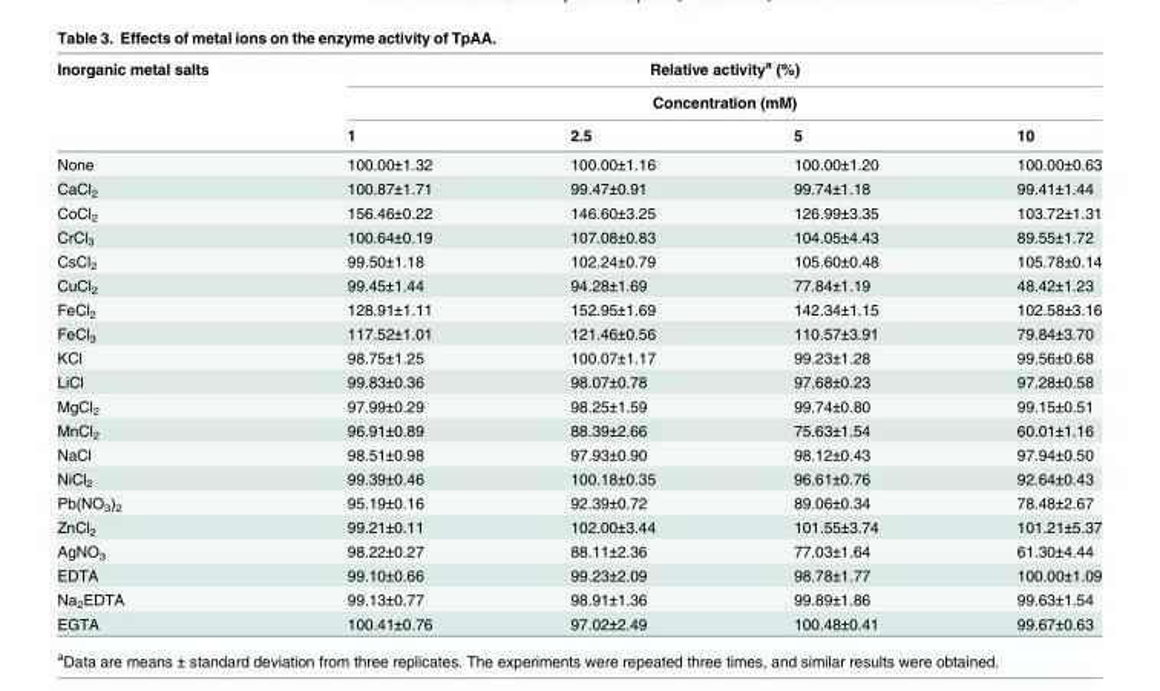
<table><thead><tr><td rowspan="3">Inorganic metal salts</td><td rowspan="2" colspan="4">Relative activity<sup>a</sup> (%) Concentration (mM)</td></tr><tr></tr><tr><td>1</td><td>2.5</td><td>5</td><td>10</td></tr></thead><tbody><tr><td>None</td><td>100.00±1.32</td><td>100.00±1.16</td><td>100.00±1.20</td><td>100.00±0.63</td></tr><tr><td>CaCl<sub>2</sub></td><td>100.87±1.71</td><td>99.47±0.91</td><td>99.74±1.18</td><td>99.41±1.44</td></tr><tr><td>CoCl<sub>2</sub></td><td>156.46±0.22</td><td>146.60±3.25</td><td>126.99±3.35</td><td>103.72±1.31</td></tr><tr><td>CrCl<sub>3</sub></td><td>100.64±0.19</td><td>107.08±0.83</td><td>104.05±4.43</td><td>89.55±1.72</td></tr><tr><td>CsCl<sub>2</sub></td><td>99.50±1.18</td><td>102.24±0.79</td><td>105.60±0.48</td><td>105.78±0.14</td></tr><tr><td>CuCl<sub>2</sub></td><td>99.45±1.44</td><td>94.28±1.69</td><td>77.84±1.19</td><td>48.42±1.23</td></tr><tr><td>FeCl<sub>2</sub></td><td>128.91±1.11</td><td>152.95±1.69</td><td>142.34±1.15</td><td>102.58±3.16</td></tr><tr><td>FeCl<sub>3</sub></td><td>117.52±1.01</td><td>121.46±0.56</td><td>110.57±3.91</td><td>79.84±3.70</td></tr><tr><td>KCl</td><td>98.75±1.25</td><td>100.07±1.17</td><td>99.23±1.28</td><td>99.56±0.68</td></tr><tr><td>LiCl</td><td>99.83±0.36</td><td>98.07±0.78</td><td>97.68±0.23</td><td>97.28±0.58</td></tr><tr><td>MgCl<sub>2</sub></td><td>97.99±0.29</td><td>98.25±1.59</td><td>99.74±0.80</td><td>99.15±0.51</td></tr><tr><td>MnCl<sub>2</sub></td><td>96.91±0.89</td><td>88.39±2.66</td><td>75.63±1.54</td><td>60.01±1.16</td></tr><tr><td>NaCl</td><td>98.51±0.98</td><td>97.93±0.90</td><td>98.12±0.43</td><td>97.94±0.50</td></tr><tr><td>NiCl<sub>2</sub></td><td>99.39±0.46</td><td>100.18±0.35</td><td>96.61±0.76</td><td>92.64±0.43</td></tr><tr><td>Pb(NO<sub>3</sub>)<sub>2</sub></td><td>95.19±0.16</td><td>92.39±0.72</td><td>89.06±0.34</td><td>78.48±2.67</td></tr><tr><td>ZnCl<sub>2</sub></td><td>99.21±0.11</td><td>102.00±3.44</td><td>101.55±3.74</td><td>101.21±5.37</td></tr><tr><td>AgNO<sub>3</sub></td><td>98.22±0.27</td><td>88.11±2.36</td><td>77.03±1.64</td><td>61.30±4.44</td></tr><tr><td>EDTA</td><td>99.10±0.66</td><td>99.23±2.09</td><td>98.78±1.77</td><td>100.00±1.09</td></tr><tr><td>Na<sub>2</sub>EDTA</td><td>99.13±0.77</td><td>98.91±1.36</td><td>99.89±1.86</td><td>99.63±1.54</td></tr><tr><td>EGTA</td><td>100.41±0.76</td><td>97.02±2.49</td><td>100.48±0.41</td><td>99.67±0.63</td></tr></tbody></table>